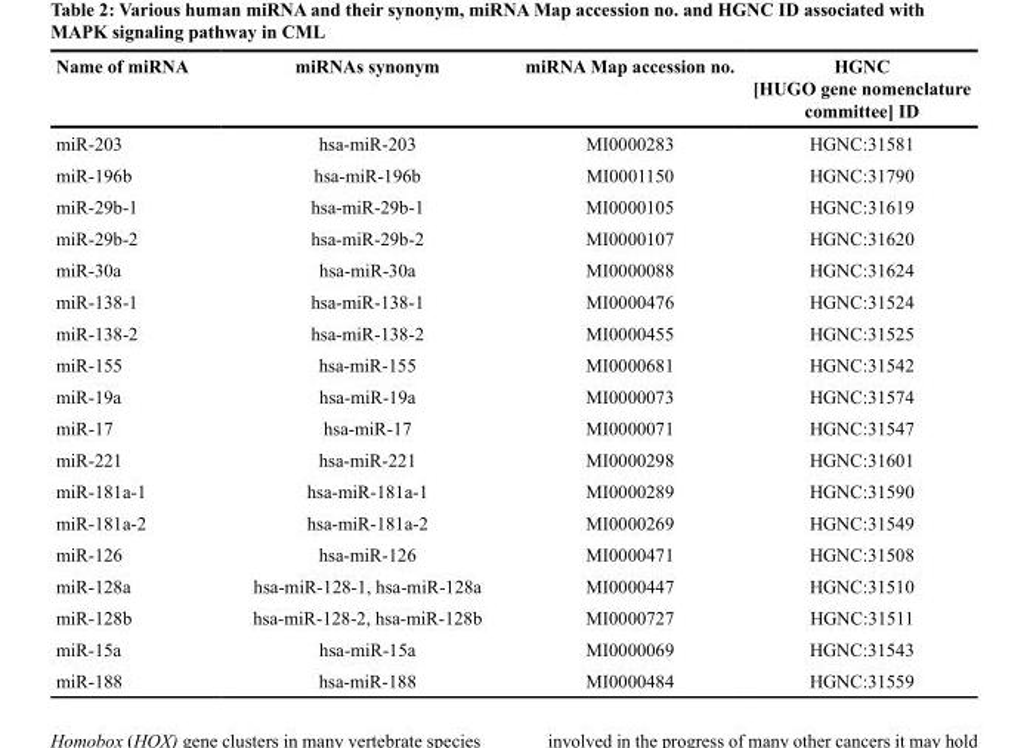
<table><thead><tr><td>Name of miRNA</td><td>miRNAs synonym</td><td>miRNA Map accession no.</td><td>HGNC [HUGO gene nomenclature committee] ID</td></tr></thead><tbody><tr><td>miR-203</td><td>hsa-miR-203</td><td>MI0000283</td><td>HGNC:31581</td></tr><tr><td>miR-196b</td><td>hsa-miR-196b</td><td>MI0001150</td><td>HGNC:31790</td></tr><tr><td>miR-29b-1</td><td>hsa-miR-29b-1</td><td>MI0000105</td><td>HGNC:31619</td></tr><tr><td>miR-29b-2</td><td>hsa-miR-29b-2</td><td>MI0000107</td><td>HGNC:31620</td></tr><tr><td>miR-30a</td><td>hsa-miR-30a</td><td>MI0000088</td><td>HGNC:31624</td></tr><tr><td>miR-138-1</td><td>hsa-miR-138-1</td><td>MI0000476</td><td>HGNC:31524</td></tr><tr><td>miR-138-2</td><td>hsa-miR-138-2</td><td>MI0000455</td><td>HGNC:31525</td></tr><tr><td>miR-155</td><td>hsa-miR-155</td><td>MI0000681</td><td>HGNC:31542</td></tr><tr><td>miR-19a</td><td>hsa-miR-19a</td><td>MI0000073</td><td>HGNC:31574</td></tr><tr><td>miR-17</td><td>hsa-miR-17</td><td>MI0000071</td><td>HGNC:31547</td></tr><tr><td>miR-221</td><td>hsa-miR-221</td><td>MI0000298</td><td>HGNC:31601</td></tr><tr><td>miR-181a-1</td><td>hsa-miR-181a-1</td><td>MI0000289</td><td>HGNC:31590</td></tr><tr><td>miR-181a-2</td><td>hsa-miR-181a-2</td><td>MI0000269</td><td>HGNC:31549</td></tr><tr><td>miR-126</td><td>hsa-miR-126</td><td>MI0000471</td><td>HGNC:31508</td></tr><tr><td>miR-128a</td><td>hsa-miR-128-1, hsa-miR-128a</td><td>MI0000447</td><td>HGNC:31510</td></tr><tr><td>miR-128b</td><td>hsa-miR-128-2, hsa-miR-128b</td><td>MI0000727</td><td>HGNC:31511</td></tr><tr><td>miR-15a</td><td>hsa-miR-15a</td><td>MI0000069</td><td>HGNC:31543</td></tr><tr><td>miR-188</td><td>hsa-miR-188</td><td>MI0000484</td><td>HGNC:31559</td></tr></tbody></table>